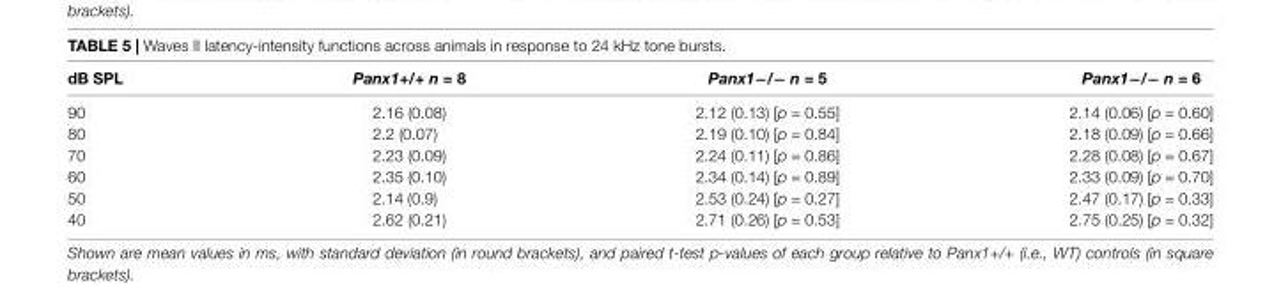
<table><thead><tr><td>dB SPL</td><td>Panx1+/+ n = 8</td><td>Panx1−/− n = 5</td><td>Panx1−/− n = 6</td></tr></thead><tbody><tr><td>90</td><td>2.16 (0.08)</td><td>2.12 (0.13) [p = 0.55]</td><td>2.14 (0.06) [p = 0.60]</td></tr><tr><td>80</td><td>2.2 (0.07)</td><td>2.19 (0.10) [p = 0.84]</td><td>2.18 (0.09) [p = 0.66]</td></tr><tr><td>70</td><td>2.23 (0.09)</td><td>2.24 (0.11) [p = 0.86]</td><td>2.28 (0.08) [p = 0.67]</td></tr><tr><td>60</td><td>2.35 (0.10)</td><td>2.34 (0.14) [p = 0.89]</td><td>2.33 (0.09) [p = 0.70]</td></tr><tr><td>50</td><td>2.14 (0.9)</td><td>2.53 (0.24) [p = 0.27]</td><td>2.47 (0.17) [p = 0.33]</td></tr><tr><td>40</td><td>2.62 (0.21)</td><td>2.71 (0.26) [p = 0.53]</td><td>2.75 (0.25) [p = 0.32]</td></tr></tbody></table>